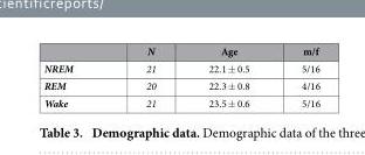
<table><thead><tr><td></td><td>N</td><td>Age</td><td>m/f</td></tr></thead><tbody><tr><td>NREM</td><td>21</td><td>22.1 ± 0.5</td><td>5/16</td></tr><tr><td>REM</td><td>20</td><td>22.3 ± 0.8</td><td>4/16</td></tr><tr><td>Wake</td><td>21</td><td>23.5 ± 0.6</td><td>5/16</td></tr></tbody></table>